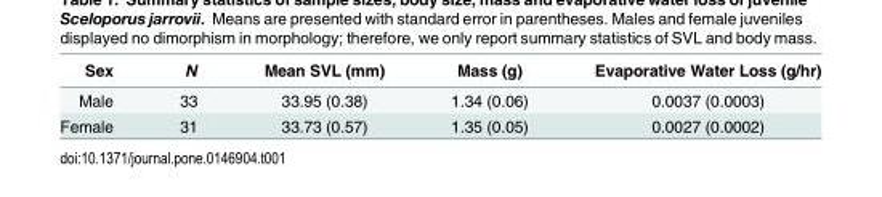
<table><thead><tr><td>Sex</td><td>N</td><td>Mean SVL (mm)</td><td>Mass (g)</td><td>Evaporative Water Loss (g/hr)</td></tr></thead><tbody><tr><td>Male</td><td>33</td><td>33.95 (0.38)</td><td>1.34 (0.06)</td><td>0.0037 (0.0003)</td></tr><tr><td>Female</td><td>31</td><td>33.73 (0.57)</td><td>1.35 (0.05)</td><td>0.0027 (0.0002)</td></tr></tbody></table>